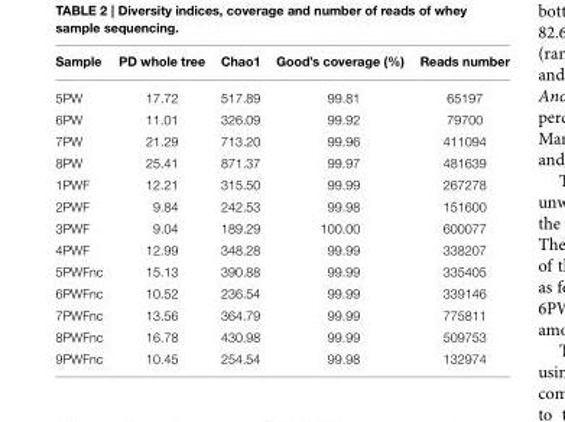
<table><thead><tr><td>Sample</td><td>PD whole tree</td><td>Chao1</td><td>Good’s coverage (%)</td><td>Reads number</td></tr></thead><tbody><tr><td>5PW</td><td>17.72</td><td>517.89</td><td>99.81</td><td>65197</td></tr><tr><td>6PW</td><td>11.01</td><td>326.09</td><td>99.92</td><td>79700</td></tr><tr><td>7PW</td><td>21.29</td><td>713.20</td><td>99.96</td><td>411094</td></tr><tr><td>8PW</td><td>25.41</td><td>871.37</td><td>99.97</td><td>481639</td></tr><tr><td>1PWF</td><td>12.21</td><td>315.50</td><td>99.99</td><td>267278</td></tr><tr><td>2PWF</td><td>9.84</td><td>242.53</td><td>99.98</td><td>151600</td></tr><tr><td>3PWF</td><td>9.04</td><td>189.29</td><td>100.00</td><td>600077</td></tr><tr><td>4PWF</td><td>12.99</td><td>348.28</td><td>99.99</td><td>338207</td></tr><tr><td>5PWFnc</td><td>15.13</td><td>390.88</td><td>99.99</td><td>335405</td></tr><tr><td>6PWFnc</td><td>10.52</td><td>236.54</td><td>99.99</td><td>339146</td></tr><tr><td>7PWFnc</td><td>13.56</td><td>364.79</td><td>99.99</td><td>775811</td></tr><tr><td>8PWFnc</td><td>16.78</td><td>430.98</td><td>99.99</td><td>509753</td></tr><tr><td>9PWFnc</td><td>10.45</td><td>254.54</td><td>99.98</td><td>132974</td></tr></tbody></table>